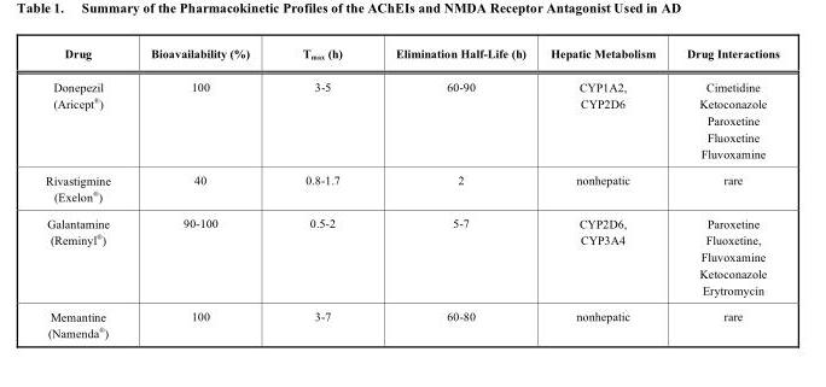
<table><thead><tr><td>Drug</td><td>Bioavailability (%)</td><td>T<sub>max</sub> (h)</td><td>Elimination Half-Life (h)</td><td>Hepatic Metabolism</td><td>Drug Interactions</td></tr></thead><tbody><tr><td>Donepezil (Aricept<sup>®</sup>)</td><td>100</td><td>3-5</td><td>60-90</td><td>CYP1A2, CYP2D6</td><td>Cimetidine Ketoconazole Paroxetine Fluoxetine Fluvoxamine</td></tr><tr><td>Rivastigmine (Exelon<sup>®</sup>)</td><td>40</td><td>0.8-1.7</td><td>2</td><td>nonhepatic</td><td>rare</td></tr><tr><td>Galantamine (Reminyl<sup>®</sup>)</td><td>90-100</td><td>0.5-2</td><td>5-7</td><td>CYP2D6, CYP3A4</td><td>Paroxetine Fluoxetine, Fluvoxamine Ketoconazole Erytromycin</td></tr><tr><td>Memantine (Namenda<sup>®</sup>)</td><td>100</td><td>3-7</td><td>60-80</td><td>nonhepatic</td><td>rare</td></tr></tbody></table>